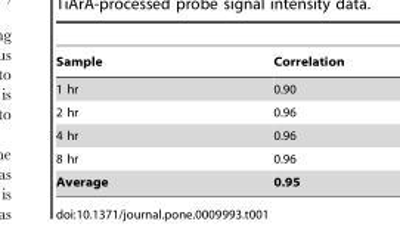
<table><thead><tr><td>Sample</td><td>Correlation</td></tr></thead><tbody><tr><td>1 hr</td><td>0.90</td></tr><tr><td>2 hr</td><td>0.96</td></tr><tr><td>4 hr</td><td>0.96</td></tr><tr><td>8 hr</td><td>0.96</td></tr><tr><td>Average</td><td>0.95</td></tr></tbody></table>